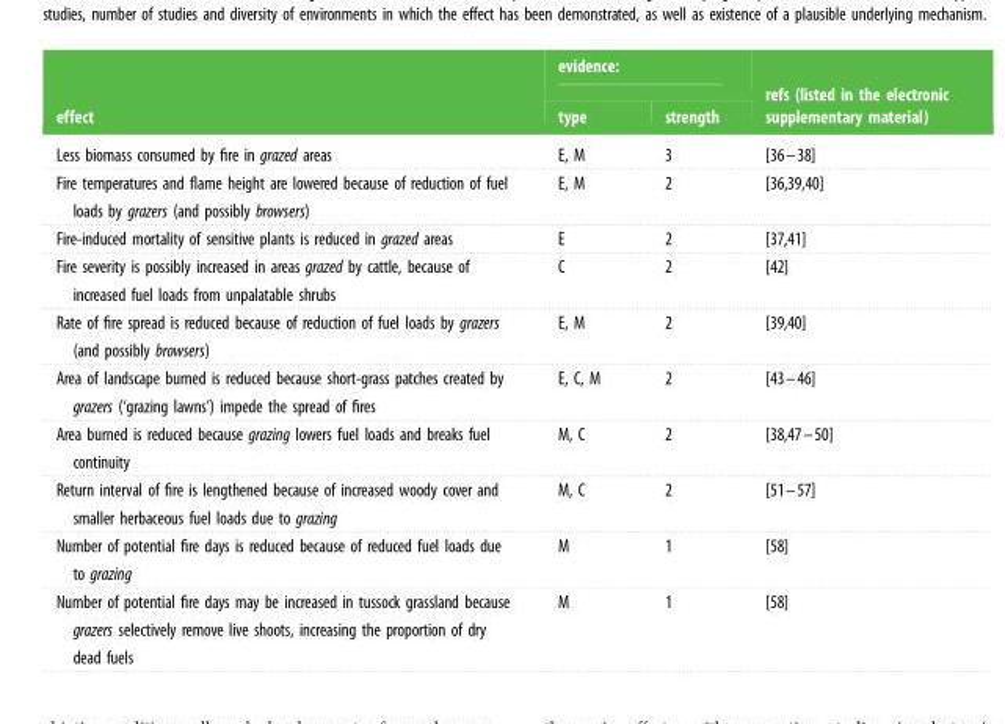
<table><thead><tr><td rowspan="2">effect</td><td colspan="2">evidence:</td><td rowspan="2">refs (listed in the electronic supplementary material)</td></tr><tr><td>type</td><td>strength</td></tr></thead><tbody><tr><td>Less biomass consumed by fire in grazed areas</td><td>E, M</td><td>3</td><td>[36–38]</td></tr><tr><td>Fire temperatures and flame height are lowered because of reduction of fuel loads by grazers (and possibly browsers)</td><td>E, M</td><td>2</td><td>[36,39,40]</td></tr><tr><td>Fire-induced mortality of sensitive plants is reduced in grazed areas</td><td>E</td><td>2</td><td>[37,41]</td></tr><tr><td>Fire severity is possibly increased in areas grazed by cattle, because of increased fuel loads from unpalatable shrubs</td><td>C</td><td>2</td><td>[42]</td></tr><tr><td>Rate of fire spread is reduced because of reduction of fuel loads by grazers (and possibly browsers)</td><td>E, M</td><td>2</td><td>[39,40]</td></tr><tr><td>Area of landscape burned is reduced because short-grass patches created by grazers (‘grazing lawns’) impede the spread of fires</td><td>E, C, M</td><td>2</td><td>[43–46]</td></tr><tr><td>Area burned is reduced because grazing lowers fuel loads and breaks fuel continuity</td><td>M, C</td><td>2</td><td>[38,47–50]</td></tr><tr><td>Return interval of fire is lengthened because of increased woody cover and smaller herbaceous fuel loads due to grazing</td><td>M, C</td><td>2</td><td>[51–57]</td></tr><tr><td>Number of potential fire days is reduced because of reduced fuel loads due to grazing</td><td>M</td><td>1</td><td>[58]</td></tr><tr><td>Number of potential fire days may be increased in tussock grassland because grazers selectively remove live shoots, increasing the proportion of dry dead fuels</td><td>M</td><td>1</td><td>[58]</td></tr></tbody></table>